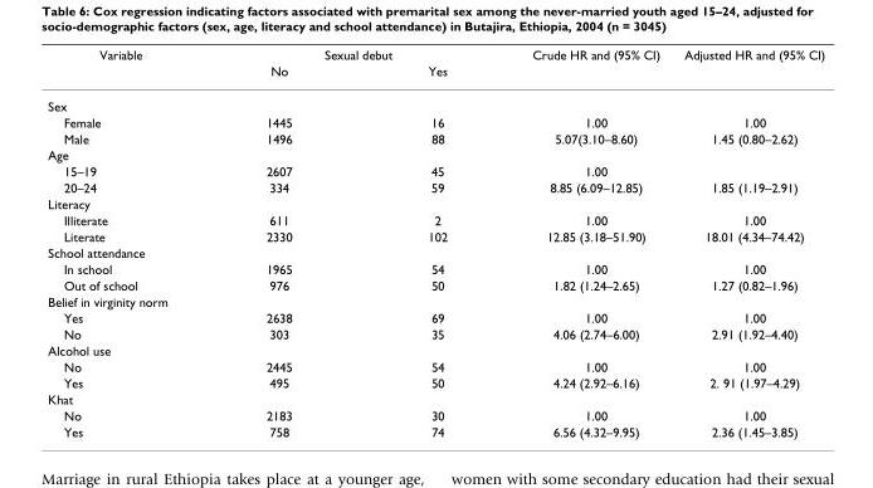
<table><thead><tr><td rowspan="2">Variable</td><td colspan="2">Sexual debut</td><td rowspan="2">Crude HR and (95% CI)</td><td rowspan="2">Adjusted HR and (95% CI)</td></tr><tr><td>No</td><td>Yes</td></tr></thead><tbody><tr><td colspan="5">Sex</td></tr><tr><td>Female</td><td>1445</td><td>16</td><td>1.00</td><td>1.00</td></tr><tr><td>Male</td><td>1496</td><td>88</td><td>5.07(3.10–8.60)</td><td>1.45 (0.80–2.62)</td></tr><tr><td colspan="5">Age</td></tr><tr><td>15–19</td><td>2607</td><td>45</td><td>1.00</td><td></td></tr><tr><td>20–24</td><td>334</td><td>59</td><td>8.85 (6.09–12.85)</td><td>1.85 (1.19–2.91)</td></tr><tr><td colspan="5">Literacy</td></tr><tr><td>Illiterate</td><td>611</td><td>2</td><td>1.00</td><td>1.00</td></tr><tr><td>Literate</td><td>2330</td><td>102</td><td>12.85 (3.18–51.90)</td><td>18.01 (4.34–74.42)</td></tr><tr><td colspan="5">School attendance</td></tr><tr><td>In school</td><td>1965</td><td>54</td><td>1.00</td><td>1.00</td></tr><tr><td>Out of school</td><td>976</td><td>50</td><td>1.82 (1.24–2.65)</td><td>1.27 (0.82–1.96)</td></tr><tr><td colspan="5">Belief in virginity norm</td></tr><tr><td>Yes</td><td>2638</td><td>69</td><td>1.00</td><td>1.00</td></tr><tr><td>No</td><td>303</td><td>35</td><td>4.06 (2.74–6.00)</td><td>2.91 (1.92–4.40)</td></tr><tr><td colspan="5">Alcohol use</td></tr><tr><td>No</td><td>2445</td><td>54</td><td>1.00</td><td>1.00</td></tr><tr><td>Yes</td><td>495</td><td>50</td><td>4.24 (2.92–6.16)</td><td>2. 91 (1.97–4.29)</td></tr><tr><td colspan="5">Khat</td></tr><tr><td>No</td><td>2183</td><td>30</td><td>1.00</td><td>1.00</td></tr><tr><td>Yes</td><td>758</td><td>74</td><td>6.56 (4.32–9.95)</td><td>2.36 (1.45–3.85)</td></tr></tbody></table>